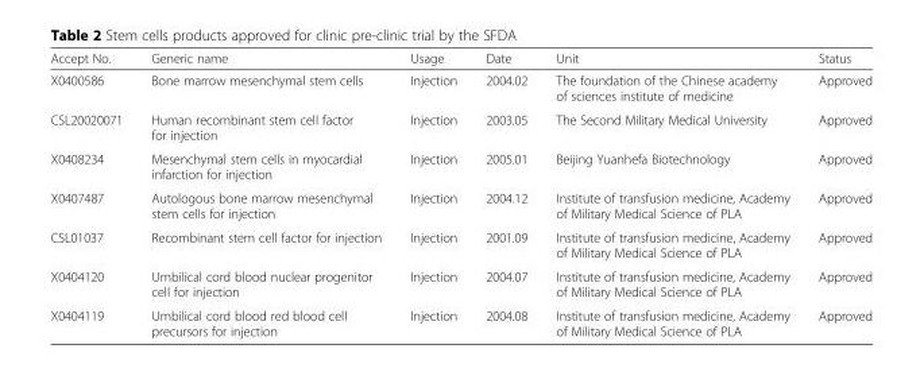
<table><thead><tr><td>Accept No.</td><td>Generic name</td><td>Usage</td><td>Date</td><td>Unit</td><td>Status</td></tr></thead><tbody><tr><td>X0400586</td><td>Bone marrow mesenchymal stem cells</td><td>Injection</td><td>2004.02</td><td>The foundation of the Chinese academy of sciences institute of medicine</td><td>Approved</td></tr><tr><td>CSL20020071</td><td>Human recombinant stem cell factor for injection</td><td>Injection</td><td>2003.05</td><td>The Second Military Medical University</td><td>Approved</td></tr><tr><td>X0408234</td><td>Mesenchymal stem cells in myocardial infarction for injection</td><td>Injection</td><td>2005.01</td><td>Beijing Yuanhefa Biotechnology</td><td>Approved</td></tr><tr><td>X0407487</td><td>Autologous bone marrow mesenchymal stem cells for injection</td><td>Injection</td><td>2004.12</td><td>Institute of transfusion medicine, Academy of Military Medical Science of PLA</td><td>Approved</td></tr><tr><td>CSL01037</td><td>Recombinant stem cell factor for injection</td><td>Injection</td><td>2001.09</td><td>Institute of transfusion medicine, Academy of Military Medical Science of PLA</td><td>Approved</td></tr><tr><td>X0404120</td><td>Umbilical cord blood nuclear progenitor cell for injection</td><td>Injection</td><td>2004.07</td><td>Institute of transfusion medicine, Academy of Military Medical Science of PLA</td><td>Approved</td></tr><tr><td>X0404119</td><td>Umbilical cord blood red blood cell precursors for injection</td><td>Injection</td><td>2004.08</td><td>Institute of transfusion medicine, Academy of Military Medical Science of PLA</td><td>Approved</td></tr></tbody></table>